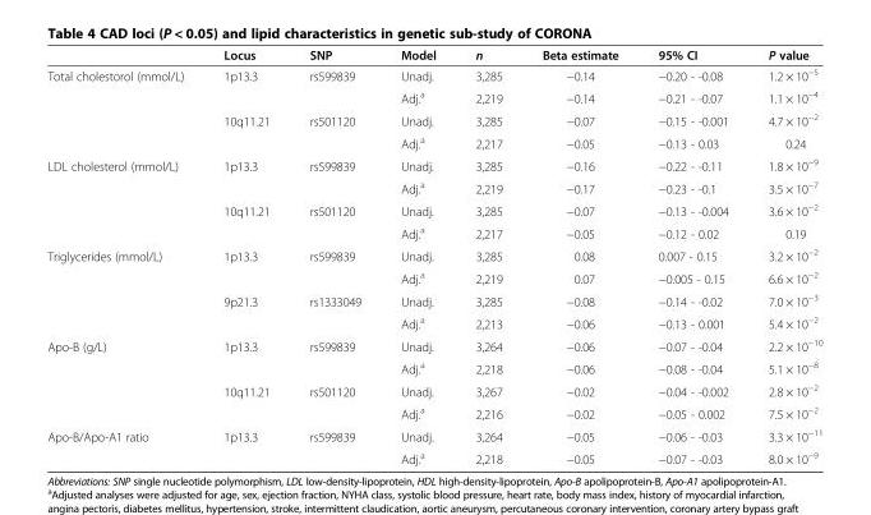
<table><thead><tr><td></td><td>Locus</td><td>SNP</td><td>Model</td><td>n</td><td>Beta estimate</td><td>95% CI</td><td>P value</td></tr></thead><tbody><tr><td rowspan="4">Total cholestorol (mmol/L)</td><td>1p13.3</td><td>rs599839</td><td>Unadj.</td><td>3,285</td><td>−0.14</td><td>−0.20 - -0.08</td><td>1.2 × 10<sup>−5</sup></td></tr><tr><td></td><td></td><td>Adj.<sup>a</sup></td><td>2,219</td><td>−0.14</td><td>−0.21 - -0.07</td><td>1.1 × 10<sup>−4</sup></td></tr><tr><td>10q11.21</td><td>rs501120</td><td>Unadj.</td><td>3,285</td><td>−0.07</td><td>−0.15 - -0.001</td><td>4.7 × 10<sup>−2</sup></td></tr><tr><td></td><td></td><td>Adj.<sup>a</sup></td><td>2,217</td><td>−0.05</td><td>−0.13 - 0.03</td><td>0.24</td></tr><tr><td rowspan="4">LDL cholesterol (mmol/L)</td><td>1p13.3</td><td>rs599839</td><td>Unadj.</td><td>3,285</td><td>−0.16</td><td>−0.22 - -0.11</td><td>1.8 × 10<sup>−9</sup></td></tr><tr><td></td><td></td><td>Adj.<sup>a</sup></td><td>2,219</td><td>−0.17</td><td>−0.23 - -0.1</td><td>3.5 × 10<sup>−7</sup></td></tr><tr><td>10q11.21</td><td>rs501120</td><td>Unadj.</td><td>3,285</td><td>−0.07</td><td>−0.13 - -0.004</td><td>3.6 × 10<sup>−2</sup></td></tr><tr><td></td><td></td><td>Adj.<sup>a</sup></td><td>2,217</td><td>−0.05</td><td>−0.12 - 0.02</td><td>0.19</td></tr><tr><td rowspan="4">Triglycerides (mmol/L)</td><td>1p13.3</td><td>rs599839</td><td>Unadj.</td><td>3,285</td><td>0.08</td><td>0.007 - 0.15</td><td>3.2 × 10<sup>−2</sup></td></tr><tr><td></td><td></td><td>Adj.<sup>a</sup></td><td>2,219</td><td>0.07</td><td>−0.005 - 0.15</td><td>6.6 × 10<sup>−2</sup></td></tr><tr><td>9p21.3</td><td>rs1333049</td><td>Unadj.</td><td>3,285</td><td>−0.08</td><td>−0.14 - -0.02</td><td>7.0 × 10<sup>−3</sup></td></tr><tr><td></td><td></td><td>Adj.<sup>a</sup></td><td>2,213</td><td>−0.06</td><td>−0.13 - 0.001</td><td>5.4 × 10<sup>−2</sup></td></tr><tr><td rowspan="4">Apo-B (g/L)</td><td>1p13.3</td><td>rs599839</td><td>Unadj.</td><td>3,264</td><td>−0.06</td><td>−0.07 - -0.04</td><td>2.2 × 10<sup>−10</sup></td></tr><tr><td></td><td></td><td>Adj.<sup>a</sup></td><td>2,218</td><td>−0.06</td><td>−0.08 - -0.04</td><td>5.1 × 10<sup>−8</sup></td></tr><tr><td>10q11.21</td><td>rs501120</td><td>Unadj.</td><td>3,267</td><td>−0.02</td><td>−0.04 - -0.002</td><td>2.8 × 10<sup>−2</sup></td></tr><tr><td></td><td></td><td>Adj.<sup>a</sup></td><td>2,216</td><td>−0.02</td><td>−0.05 - 0.002</td><td>7.5 × 10<sup>−2</sup></td></tr><tr><td rowspan="2">Apo-B/Apo-A1 ratio</td><td>1p13.3</td><td>rs599839</td><td>Unadj.</td><td>3,264</td><td>−0.05</td><td>−0.06 - -0.03</td><td>3.3 × 10<sup>−11</sup></td></tr><tr><td></td><td></td><td>Adj.<sup>a</sup></td><td>2,218</td><td>−0.05</td><td>−0.07 - -0.03</td><td>8.0 × 10<sup>−9</sup></td></tr></tbody></table>